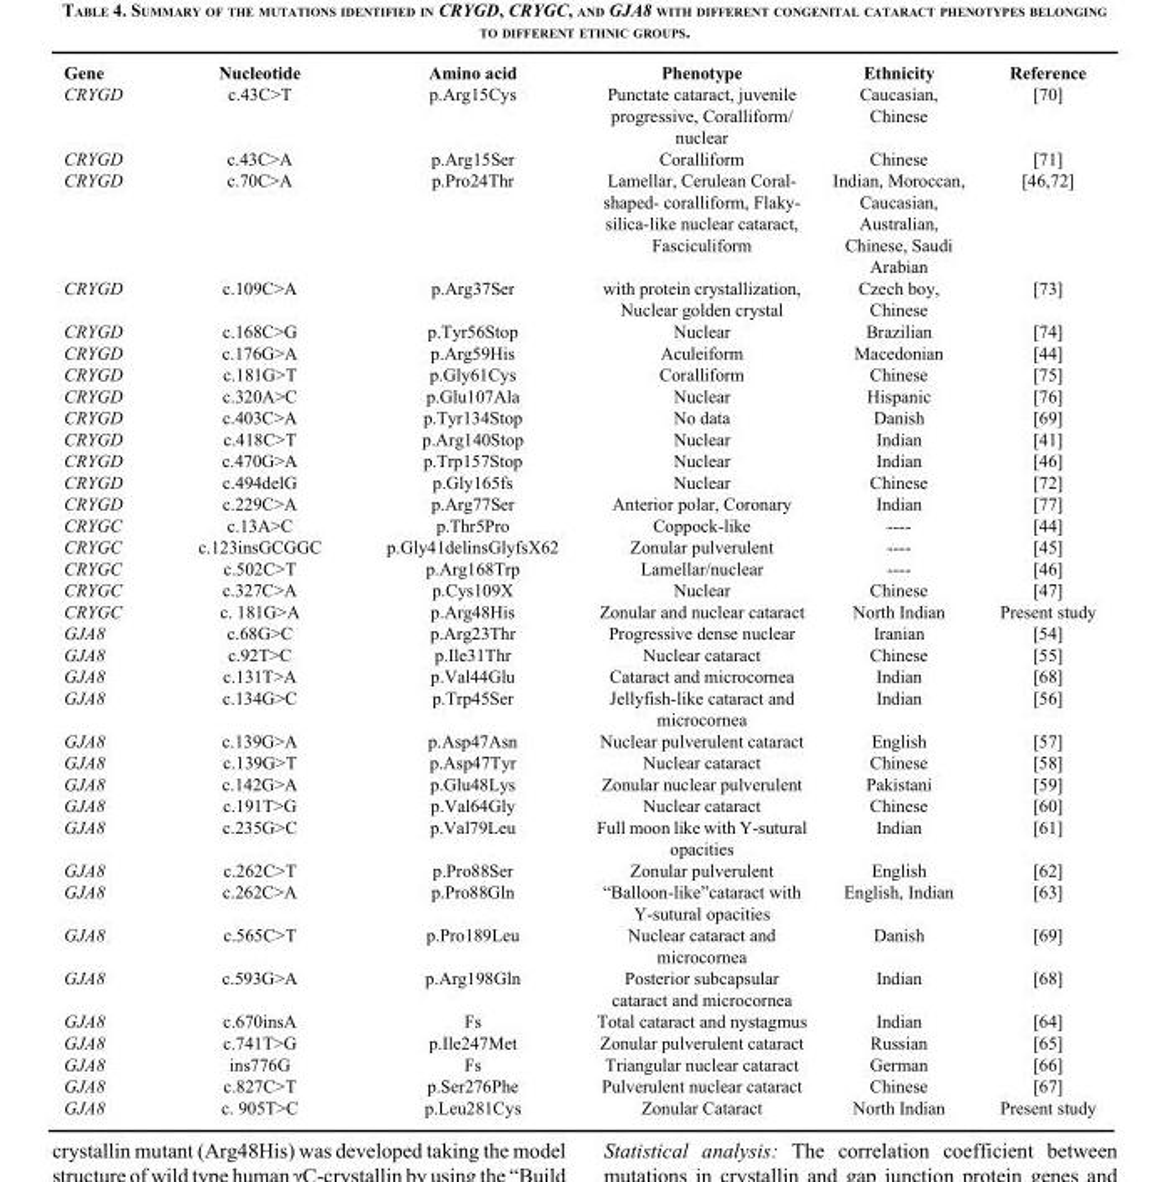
<table><thead><tr><td>Gene</td><td>Nucleotide</td><td>Amino acid</td><td>Phenotype</td><td>Ethnicity</td><td>Reference</td></tr></thead><tbody><tr><td>CRYGD</td><td>c.43C&gt;T</td><td>p.Arg15Cys</td><td>Punctate cataract, juvenile progressive, Coralliform/ nuclear</td><td>Caucasian, Chinese</td><td>[70]</td></tr><tr><td>CRYGD</td><td>c.43C&gt;A</td><td>p.Arg15Ser</td><td>Coralliform</td><td>Chinese</td><td>[71]</td></tr><tr><td>CRYGD</td><td>c.70C&gt;A</td><td>p.Pro24Thr</td><td>Lamellar, Cerulean Coral- shaped- coralliform, Flaky- silica-like nuclear cataract, Fasciculiform</td><td>Indian, Moroccan, Caucasian, Australian, Chinese, Saudi Arabian</td><td>[46,72]</td></tr><tr><td>CRYGD</td><td>c.109C&gt;A</td><td>p.Arg37Ser</td><td>with protein crystallization, Nuclear golden crystal</td><td>Czech boy, Chinese</td><td>[73]</td></tr><tr><td>CRYGD</td><td>c.168C&gt;G</td><td>p.Tyr56Stop</td><td>Nuclear</td><td>Brazilian</td><td>[74]</td></tr><tr><td>CRYGD</td><td>c.176G&gt;A</td><td>p.Arg59His</td><td>Aculeiform</td><td>Macedonian</td><td>[44]</td></tr><tr><td>CRYGD</td><td>c.181G&gt;T</td><td>p.Gly61Cys</td><td>Coralliform</td><td>Chinese</td><td>[75]</td></tr><tr><td>CRYGD</td><td>c.320A&gt;C</td><td>p.Glu107Ala</td><td>Nuclear</td><td>Hispanic</td><td>[76]</td></tr><tr><td>CRYGD</td><td>c.403C&gt;A</td><td>p.Tyr134Stop</td><td>No data</td><td>Danish</td><td>[69]</td></tr><tr><td>CRYGD</td><td>c.418C&gt;T</td><td>p.Arg140Stop</td><td>Nuclear</td><td>Indian</td><td>[41]</td></tr><tr><td>CRYGD</td><td>c.470G&gt;A</td><td>p.Trp157Stop</td><td>Nuclear</td><td>Indian</td><td>[46]</td></tr><tr><td>CRYGD</td><td>c.494delG</td><td>p.Gly165fs</td><td>Nuclear</td><td>Chinese</td><td>[72]</td></tr><tr><td>CRYGD</td><td>c.229C&gt;A</td><td>p.Arg77Ser</td><td>Anterior polar, Coronary</td><td>Indian</td><td>[77]</td></tr><tr><td>CRYGC</td><td>c.13A&gt;C</td><td>p.Thr5Pro</td><td>Coppock-like</td><td>----</td><td>[44]</td></tr><tr><td>CRYGC</td><td>c.123insGCGGC</td><td>p.Gly41delinsGlyfsX62</td><td>Zonular pulverulent</td><td>----</td><td>[45]</td></tr><tr><td>CRYGC</td><td>c.502C&gt;T</td><td>p.Arg168Trp</td><td>Lamellar/nuclear</td><td>----</td><td>[46]</td></tr><tr><td>CRYGC</td><td>c.327C&gt;A</td><td>p.Cys109X</td><td>Nuclear</td><td>Chinese</td><td>[47]</td></tr><tr><td>CRYGC</td><td>c. 181G&gt;A</td><td>p.Arg48His</td><td>Zonular and nuclear cataract</td><td>North Indian</td><td>Present study</td></tr><tr><td>GJA8</td><td>c.68G&gt;C</td><td>p.Arg23Thr</td><td>Progressive dense nuclear</td><td>Iranian</td><td>[54]</td></tr><tr><td>GJA8</td><td>c.92T&gt;C</td><td>p.Ile31Thr</td><td>Nuclear cataract</td><td>Chinese</td><td>[55]</td></tr><tr><td>GJA8</td><td>c.131T&gt;A</td><td>p.Val44Glu</td><td>Cataract and microcornea</td><td>Indian</td><td>[68]</td></tr><tr><td>GJA8</td><td>c.134G&gt;C</td><td>p.Trp45Ser</td><td>Jellyfish-like cataract and microcornea</td><td>Indian</td><td>[56]</td></tr><tr><td>GJA8</td><td>c.139G&gt;A</td><td>p.Asp47Asn</td><td>Nuclear pulverulent cataract</td><td>English</td><td>[57]</td></tr><tr><td>GJA8</td><td>c.139G&gt;T</td><td>p.Asp47Tyr</td><td>Nuclear cataract</td><td>Chinese</td><td>[58]</td></tr><tr><td>GJA8</td><td>c.142G&gt;A</td><td>p.Glu48Lys</td><td>Zonular nuclear pulverulent</td><td>Pakistani</td><td>[59]</td></tr><tr><td>GJA8</td><td>c.191T&gt;G</td><td>p.Val64Gly</td><td>Nuclear cataract</td><td>Chinese</td><td>[60]</td></tr><tr><td>GJA8</td><td>c.235G&gt;C</td><td>p.Val79Leu</td><td>Full moon like with Y-sutural opacities</td><td>Indian</td><td>[61]</td></tr><tr><td>GJA8</td><td>c.262C&gt;T</td><td>p.Pro88Ser</td><td>Zonular pulverulent</td><td>English</td><td>[62]</td></tr><tr><td>GJA8</td><td>c.262C&gt;A</td><td>p.Pro88Gln</td><td>“Balloon-like”cataract with Y-sutural opacities</td><td>English, Indian</td><td>[63]</td></tr><tr><td>GJA8</td><td>c.565C&gt;T</td><td>p.Pro189Leu</td><td>Nuclear cataract and microcornea</td><td>Danish</td><td>[69]</td></tr><tr><td>GJA8</td><td>c.593G&gt;A</td><td>p.Arg198Gln</td><td>Posterior subcapsular cataract and microcornea</td><td>Indian</td><td>[68]</td></tr><tr><td>GJA8</td><td>c.670insA</td><td>Fs</td><td>Total cataract and nystagmus</td><td>Indian</td><td>[64]</td></tr><tr><td>GJA8</td><td>c.741T&gt;G</td><td>p.Ile247Met</td><td>Zonular pulverulent cataract</td><td>Russian</td><td>[65]</td></tr><tr><td>GJA8</td><td>ins776G</td><td>Fs</td><td>Triangular nuclear cataract</td><td>German</td><td>[66]</td></tr><tr><td>GJA8</td><td>c.827C&gt;T</td><td>p.Ser276Phe</td><td>Pulverulent nuclear cataract</td><td>Chinese</td><td>[67]</td></tr><tr><td>GJA8</td><td>c. 905T&gt;C</td><td>p.Leu281Cys</td><td>Zonular Cataract</td><td>North Indian</td><td>Present study</td></tr></tbody></table>